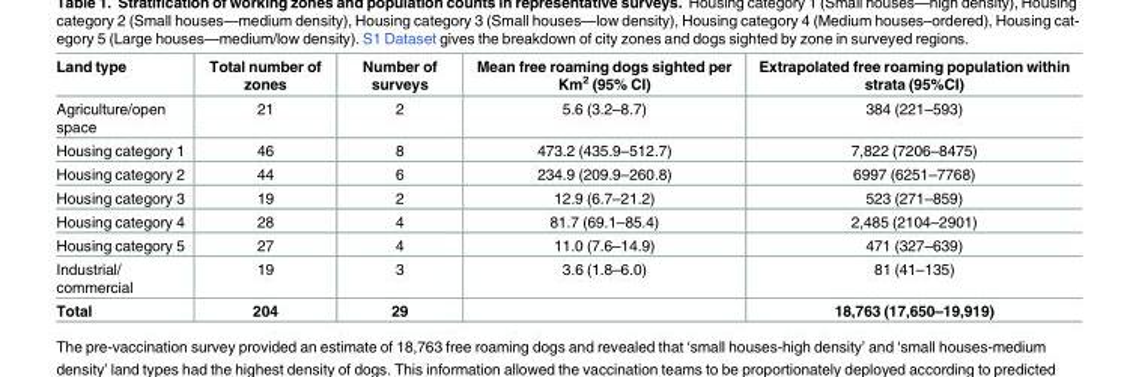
<table><thead><tr><td>Land type</td><td>Total number of zones</td><td>Number of surveys</td><td>Mean free roaming dogs sighted per Km<sup>2</sup> (95% CI)</td><td>Extrapolated free roaming population within strata (95%CI)</td></tr></thead><tbody><tr><td>Agriculture/open space</td><td>21</td><td>2</td><td>5.6 (3.2–8.7)</td><td>384 (221–593)</td></tr><tr><td>Housing category 1</td><td>46</td><td>8</td><td>473.2 (435.9–512.7)</td><td>7,822 (7206–8475)</td></tr><tr><td>Housing category 2</td><td>44</td><td>6</td><td>234.9 (209.9–260.8)</td><td>6997 (6251–7768)</td></tr><tr><td>Housing category 3</td><td>19</td><td>2</td><td>12.9 (6.7–21.2)</td><td>523 (271–859)</td></tr><tr><td>Housing category 4</td><td>28</td><td>4</td><td>81.7 (69.1–85.4)</td><td>2,485 (2104–2901)</td></tr><tr><td>Housing category 5</td><td>27</td><td>4</td><td>11.0 (7.6–14.9)</td><td>471 (327–639)</td></tr><tr><td>Industrial/ commercial</td><td>19</td><td>3</td><td>3.6 (1.8–6.0)</td><td>81 (41–135)</td></tr><tr><td>Total</td><td>204</td><td>29</td><td></td><td>18,763 (17,650–19,919)</td></tr></tbody></table>